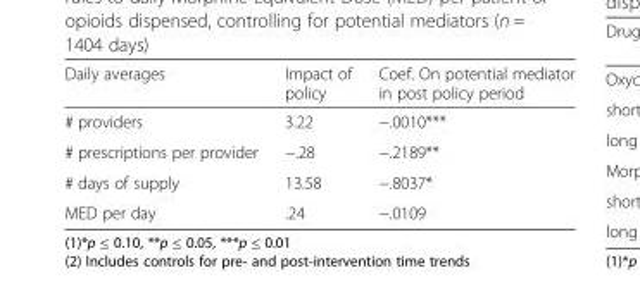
<table><thead><tr><td>Daily averages</td><td>Impact of policy</td><td>Coef. On potential mediator in post policy period</td></tr></thead><tbody><tr><td># providers</td><td>3.22</td><td>−.0010***</td></tr><tr><td># prescriptions per provider</td><td>−.28</td><td>−.2189**</td></tr><tr><td># days of supply</td><td>13.58</td><td>−.8037*</td></tr><tr><td>MED per day</td><td>.24</td><td>−.0109</td></tr></tbody></table>